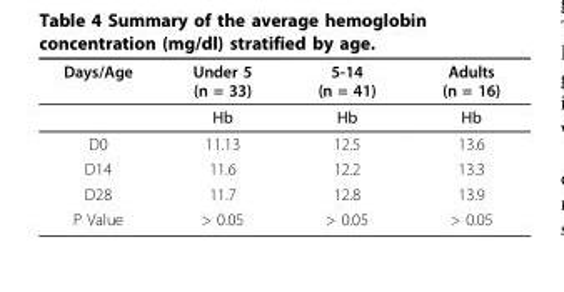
<table><thead><tr><td rowspan="2">Days/Age</td><td rowspan="2">Under 5 (n = 33) Hb</td><td rowspan="2">5-14 (n = 41) Hb</td><td rowspan="2">Adults (n = 16) Hb</td></tr><tr></tr></thead><tbody><tr><td>D0</td><td>11.13</td><td>12.5</td><td>13.6</td></tr><tr><td>D14</td><td>11.6</td><td>12.2</td><td>13.3</td></tr><tr><td>D28</td><td>11.7</td><td>12.8</td><td>13.9</td></tr><tr><td>P Value</td><td>&gt; 0.05</td><td>&gt; 0.05</td><td>&gt; 0.05</td></tr></tbody></table>